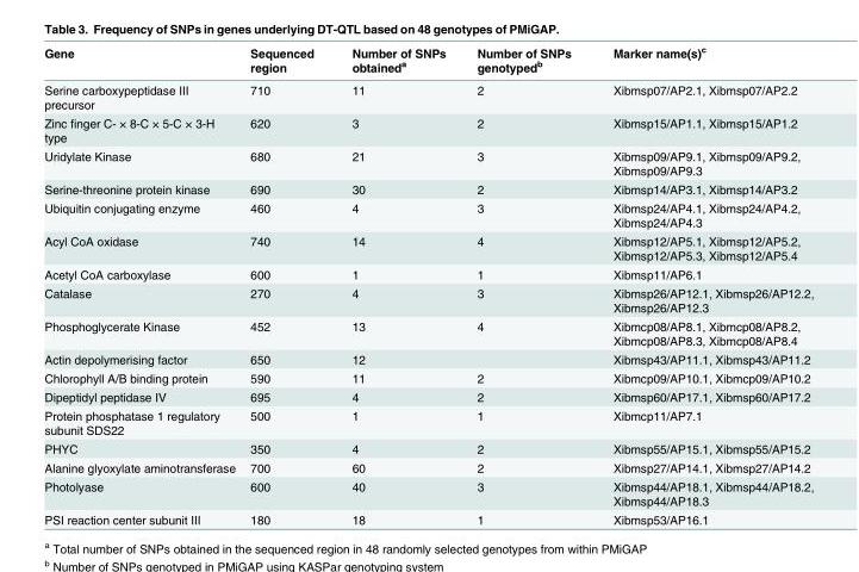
<table><thead><tr><td>Gene</td><td>Sequenced region</td><td>Number of SNPs obtained<sup>a</sup></td><td>Number of SNPs genotyped<sup>b</sup></td><td>Marker name(s)<sup>c</sup></td></tr></thead><tbody><tr><td>Serine carboxypeptidase III precursor</td><td>710</td><td>11</td><td>2</td><td>Xibmsp07/AP2.1, Xibmsp07/AP2.2</td></tr><tr><td>Zinc finger C- × 8-C × 5-C × 3-H type</td><td>620</td><td>3</td><td>2</td><td>Xibmsp15/AP1.1, Xibmsp15/AP1.2</td></tr><tr><td>Uridylate Kinase</td><td>680</td><td>21</td><td>3</td><td>Xibmsp09/AP9.1, Xibmsp09/AP9.2, Xibmsp09/AP9.3</td></tr><tr><td>Serine-threonine protein kinase</td><td>690</td><td>30</td><td>2</td><td>Xibmsp14/AP3.1, Xibmsp14/AP3.2</td></tr><tr><td>Ubiquitin conjugating enzyme</td><td>460</td><td>4</td><td>3</td><td>Xibmsp24/AP4.1, Xibmsp24/AP4.2, Xibmsp24/AP4.3</td></tr><tr><td>Acyl CoA oxidase</td><td>740</td><td>14</td><td>4</td><td>Xibmsp12/AP5.1, Xibmsp12/AP5.2, Xibmsp12/AP5.3, Xibmsp12/AP5.4</td></tr><tr><td>Acetyl CoA carboxylase</td><td>600</td><td>1</td><td>1</td><td>Xibmsp11/AP6.1</td></tr><tr><td>Catalase</td><td>270</td><td>4</td><td>3</td><td>Xibmsp26/AP12.1, Xibmsp26/AP12.2, Xibmsp26/AP12.3</td></tr><tr><td>Phosphoglycerate Kinase</td><td>452</td><td>13</td><td>4</td><td>Xibmcp08/AP8.1, Xibmcp08/AP8.2, Xibmcp08/AP8.3, Xibmcp08/AP8.4</td></tr><tr><td>Actin depolymerising factor</td><td>650</td><td>12</td><td></td><td>Xibmsp43/AP11.1, Xibmsp43/AP11.2</td></tr><tr><td>Chlorophyll A/B binding protein</td><td>590</td><td>11</td><td>2</td><td>Xibmcp09/AP10.1, Xibmcp09/AP10.2</td></tr><tr><td>Dipeptidyl peptidase IV</td><td>695</td><td>4</td><td>2</td><td>Xibmsp60/AP17.1, Xibmsp60/AP17.2</td></tr><tr><td>Protein phosphatase 1 regulatory subunit SDS22</td><td>500</td><td>1</td><td>1</td><td>Xibmcp11/AP7.1</td></tr><tr><td>PHYC</td><td>350</td><td>4</td><td>2</td><td>Xibmsp55/AP15.1, Xibmsp55/AP15.2</td></tr><tr><td>Alanine glyoxylate aminotransferase</td><td>700</td><td>60</td><td>2</td><td>Xibmsp27/AP14.1, Xibmsp27/AP14.2</td></tr><tr><td>Photolyase</td><td>600</td><td>40</td><td>3</td><td>Xibmsp44/AP18.1, Xibmsp44/AP18.2, Xibmsp44/AP18.3</td></tr><tr><td>PSI reaction center subunit III</td><td>180</td><td>18</td><td>1</td><td>Xibmsp53/AP16.1</td></tr></tbody></table>